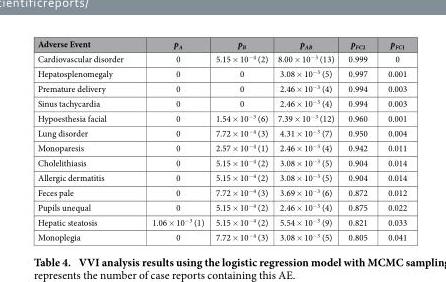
<table><thead><tr><td>Adverse Event</td><td>p<sub>A</sub></td><td>p<sub>B</sub></td><td>p<sub>AB</sub></td><td>p<sub>FC2</sub></td><td>p<sub>FC1</sub></td></tr></thead><tbody><tr><td>Cardiovascular disorder</td><td>0</td><td>5.15 × 10<sup>−4</sup> (2)</td><td>8.00 × 10<sup>−3</sup> (13)</td><td>0.999</td><td>0</td></tr><tr><td>Hepatosplenomegaly</td><td>0</td><td>0</td><td>3.08 × 10<sup>−3</sup> (5)</td><td>0.997</td><td>0.001</td></tr><tr><td>Premature delivery</td><td>0</td><td>0</td><td>2.46 × 10<sup>−3</sup> (4)</td><td>0.994</td><td>0.003</td></tr><tr><td>Sinus tachycardia</td><td>0</td><td>0</td><td>2.46 × 10<sup>−3</sup> (4)</td><td>0.994</td><td>0.003</td></tr><tr><td>Hypoesthesia facial</td><td>0</td><td>1.54 × 10<sup>−3</sup> (6)</td><td>7.39 × 10<sup>−3</sup> (12)</td><td>0.960</td><td>0.001</td></tr><tr><td>Lung disorder</td><td>0</td><td>7.72 × 10<sup>−4</sup> (3)</td><td>4.31 × 10<sup>−3</sup> (7)</td><td>0.950</td><td>0.004</td></tr><tr><td>Monoparesis</td><td>0</td><td>2.57 × 10<sup>−4</sup> (1)</td><td>2.46 × 10<sup>−3</sup> (4)</td><td>0.942</td><td>0.011</td></tr><tr><td>Cholelithiasis</td><td>0</td><td>5.15 × 10<sup>−4</sup> (2)</td><td>3.08 × 10<sup>−3</sup> (5)</td><td>0.904</td><td>0.014</td></tr><tr><td>Allergic dermatitis</td><td>0</td><td>5.15 × 10<sup>−4</sup> (2)</td><td>3.08 × 10<sup>−3</sup> (5)</td><td>0.904</td><td>0.014</td></tr><tr><td>Feces pale</td><td>0</td><td>7.72 × 10<sup>−4</sup> (3)</td><td>3.69 × 10<sup>−3</sup> (6)</td><td>0.872</td><td>0.012</td></tr><tr><td>Pupils unequal</td><td>0</td><td>5.15 × 10<sup>−4</sup> (2)</td><td>2.46 × 10<sup>−3</sup> (4)</td><td>0.875</td><td>0.022</td></tr><tr><td>Hepatic steatosis</td><td>1.06 × 10<sup>−3</sup> (1)</td><td>5.15 × 10<sup>−4</sup> (2)</td><td>5.54 × 10<sup>−3</sup> (9)</td><td>0.821</td><td>0.033</td></tr><tr><td>Monoplegia</td><td>0</td><td>7.72 × 10<sup>−4</sup> (3)</td><td>3.08 × 10<sup>−3</sup> (5)</td><td>0.805</td><td>0.041</td></tr></tbody></table>